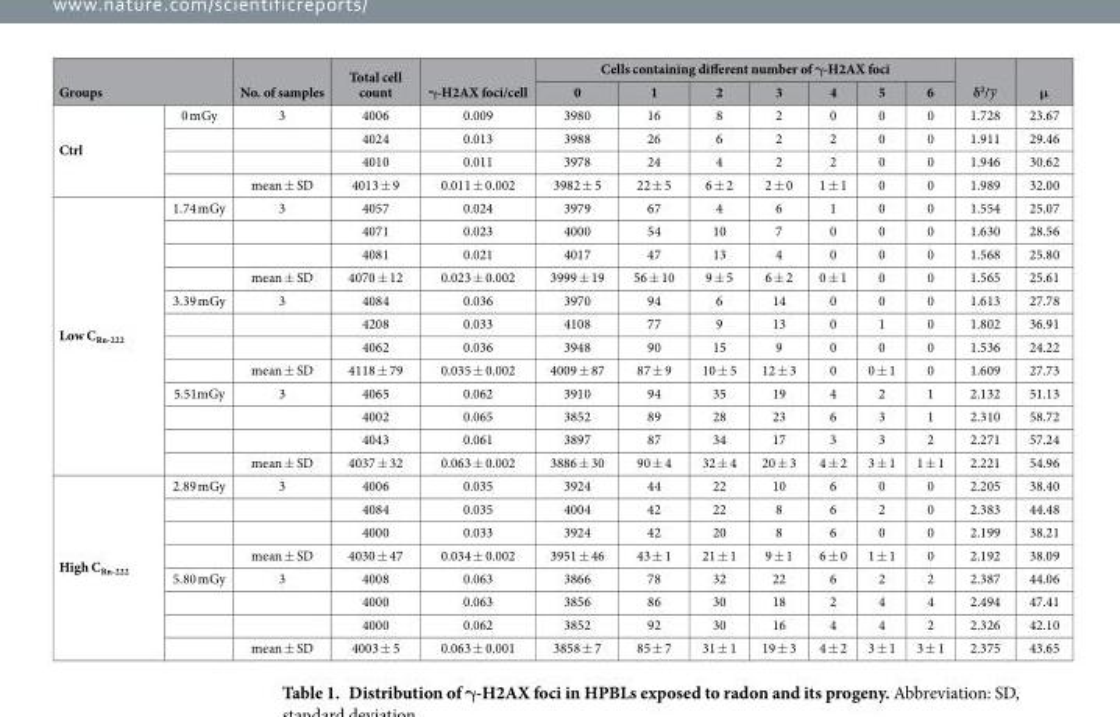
<table><thead><tr><td></td><td></td><td rowspan="2">No. of samples</td><td rowspan="2">Total cell count</td><td rowspan="2">γ-H2AX foci/cell</td><td colspan="7">Cells containing different number of γ-H2AX foci</td><td rowspan="2">δ2/y</td><td rowspan="2">μ</td></tr><tr><td colspan="2">Groups</td><td>0</td><td>1</td><td>2</td><td>3</td><td>4</td><td>5</td><td>6</td></tr></thead><tbody><tr><td rowspan="4">Ctrl</td><td>0 mGy</td><td>3</td><td>4006</td><td>0.009</td><td>3980</td><td>16</td><td>8</td><td>2</td><td>0</td><td>0</td><td>0</td><td>1.728</td><td>23.67</td></tr><tr><td></td><td></td><td>4024</td><td>0.013</td><td>3988</td><td>26</td><td>6</td><td>2</td><td>2</td><td>0</td><td>0</td><td>1.911</td><td>29.46</td></tr><tr><td></td><td></td><td>4010</td><td>0.011</td><td>3978</td><td>24</td><td>4</td><td>2</td><td>2</td><td>0</td><td>0</td><td>1.946</td><td>30.62</td></tr><tr><td></td><td>mean ± SD</td><td>4013 ± 9</td><td>0.011 ± 0.002</td><td>3982 ± 5</td><td>22 ± 5</td><td>6 ± 2</td><td>2 ± 0</td><td>1 ± 1</td><td>0</td><td>0</td><td>1.989</td><td>32.00</td></tr><tr><td rowspan="12">Low C<sub>Rn-222</sub></td><td>1.74 mGy</td><td>3</td><td>4057</td><td>0.024</td><td>3979</td><td>67</td><td>4</td><td>6</td><td>1</td><td>0</td><td>0</td><td>1.554</td><td>25.07</td></tr><tr><td></td><td></td><td>4071</td><td>0.023</td><td>4000</td><td>54</td><td>10</td><td>7</td><td>0</td><td>0</td><td>0</td><td>1.630</td><td>28.56</td></tr><tr><td></td><td></td><td>4081</td><td>0.021</td><td>4017</td><td>47</td><td>13</td><td>4</td><td>0</td><td>0</td><td>0</td><td>1.568</td><td>25.80</td></tr><tr><td></td><td>mean ± SD</td><td>4070 ± 12</td><td>0.023 ± 0.002</td><td>3999 ± 19</td><td>56 ± 10</td><td>9 ± 5</td><td>6 ± 2</td><td>0 ± 1</td><td>0</td><td>0</td><td>1.565</td><td>25.61</td></tr><tr><td>3.39 mGy</td><td>3</td><td>4084</td><td>0.036</td><td>3970</td><td>94</td><td>6</td><td>14</td><td>0</td><td>0</td><td>0</td><td>1.613</td><td>27.78</td></tr><tr><td></td><td></td><td>4208</td><td>0.033</td><td>4108</td><td>77</td><td>9</td><td>13</td><td>0</td><td>1</td><td>0</td><td>1.802</td><td>36.91</td></tr><tr><td></td><td></td><td>4062</td><td>0.036</td><td>3948</td><td>90</td><td>15</td><td>9</td><td>0</td><td>0</td><td>0</td><td>1.536</td><td>24.22</td></tr><tr><td></td><td>mean ± SD</td><td>4118 ± 79</td><td>0.035 ± 0.002</td><td>4009 ± 87</td><td>87 ± 9</td><td>10 ± 5</td><td>12 ± 3</td><td>0</td><td>0 ± 1</td><td>0</td><td>1.609</td><td>27.73</td></tr><tr><td>5.51mGy</td><td>3</td><td>4065</td><td>0.062</td><td>3910</td><td>94</td><td>35</td><td>19</td><td>4</td><td>2</td><td>1</td><td>2.132</td><td>51.13</td></tr><tr><td></td><td></td><td>4002</td><td>0.065</td><td>3852</td><td>89</td><td>28</td><td>23</td><td>6</td><td>3</td><td>1</td><td>2.310</td><td>58.72</td></tr><tr><td></td><td></td><td>4043</td><td>0.061</td><td>3897</td><td>87</td><td>34</td><td>17</td><td>3</td><td>3</td><td>2</td><td>2.271</td><td>57.24</td></tr><tr><td></td><td>mean ± SD</td><td>4037 ± 32</td><td>0.063 ± 0.002</td><td>3886 ± 30</td><td>90 ± 4</td><td>32 ± 4</td><td>20 ± 3</td><td>4 ± 2</td><td>3 ± 1</td><td>1 ± 1</td><td>2.221</td><td>54.96</td></tr><tr><td rowspan="8">High C<sub>Rn-222</sub></td><td>2.89 mGy</td><td>3</td><td>4006</td><td>0.035</td><td>3924</td><td>44</td><td>22</td><td>10</td><td>6</td><td>0</td><td>0</td><td>2.205</td><td>38.40</td></tr><tr><td></td><td></td><td>4084</td><td>0.035</td><td>4004</td><td>42</td><td>22</td><td>8</td><td>6</td><td>2</td><td>0</td><td>2.383</td><td>44.48</td></tr><tr><td></td><td></td><td>4000</td><td>0.033</td><td>3924</td><td>42</td><td>20</td><td>8</td><td>6</td><td>0</td><td>0</td><td>2.199</td><td>38.21</td></tr><tr><td></td><td>mean ± SD</td><td>4030 ± 47</td><td>0.034 ± 0.002</td><td>3951 ± 46</td><td>43 ± 1</td><td>21 ± 1</td><td>9 ± 1</td><td>6 ± 0</td><td>1 ± 1</td><td>0</td><td>2.192</td><td>38.09</td></tr><tr><td>5.80 mGy</td><td>3</td><td>4008</td><td>0.063</td><td>3866</td><td>78</td><td>32</td><td>22</td><td>6</td><td>2</td><td>2</td><td>2.387</td><td>44.06</td></tr><tr><td></td><td></td><td>4000</td><td>0.063</td><td>3856</td><td>86</td><td>30</td><td>18</td><td>2</td><td>4</td><td>4</td><td>2.494</td><td>47.41</td></tr><tr><td></td><td></td><td>4000</td><td>0.062</td><td>3852</td><td>92</td><td>30</td><td>16</td><td>4</td><td>4</td><td>2</td><td>2.326</td><td>42.10</td></tr><tr><td></td><td>mean ± SD</td><td>4003 ± 5</td><td>0.063 ± 0.001</td><td>3858 ± 7</td><td>85 ± 7</td><td>31 ± 1</td><td>19 ± 3</td><td>4 ± 2</td><td>3 ± 1</td><td>3 ± 1</td><td>2.375</td><td>43.65</td></tr></tbody></table>